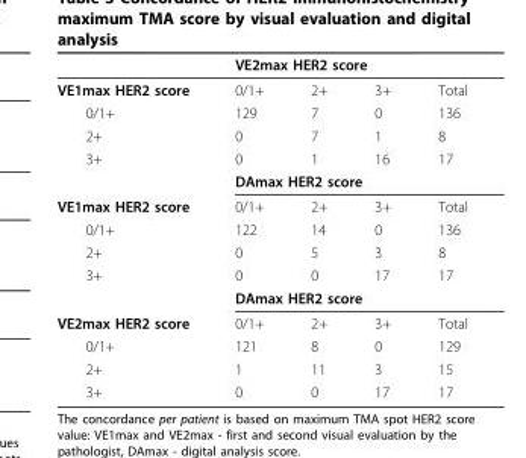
<table><thead><tr><td rowspan="2">VE1max HER2 score</td><td colspan="4">VE2max HER2 score</td></tr><tr><td>0/1+</td><td>2+</td><td>3+</td><td>Total</td></tr></thead><tbody><tr><td>0/1+</td><td>129</td><td>7</td><td>0</td><td>136</td></tr><tr><td>2+</td><td>0</td><td>7</td><td>1</td><td>8</td></tr><tr><td rowspan="2">3+</td><td>0</td><td>1</td><td>16</td><td>17</td></tr><tr><td colspan="4">DAmax HER2 score</td></tr><tr><td>VE1max HER2 score</td><td>0/1+</td><td>2+</td><td>3+</td><td>Total</td></tr><tr><td>0/1+</td><td>122</td><td>14</td><td>0</td><td>136</td></tr><tr><td>2+</td><td>0</td><td>5</td><td>3</td><td>8</td></tr><tr><td rowspan="2">3+</td><td>0</td><td>0</td><td>17</td><td>17</td></tr><tr><td colspan="4">DAmax HER2 score</td></tr><tr><td>VE2max HER2 score</td><td>0/1+</td><td>2+</td><td>3+</td><td>Total</td></tr><tr><td>0/1+</td><td>121</td><td>8</td><td>0</td><td>129</td></tr><tr><td>2+</td><td>1</td><td>11</td><td>3</td><td>15</td></tr><tr><td>3+</td><td>0</td><td>0</td><td>17</td><td>17</td></tr></tbody></table>